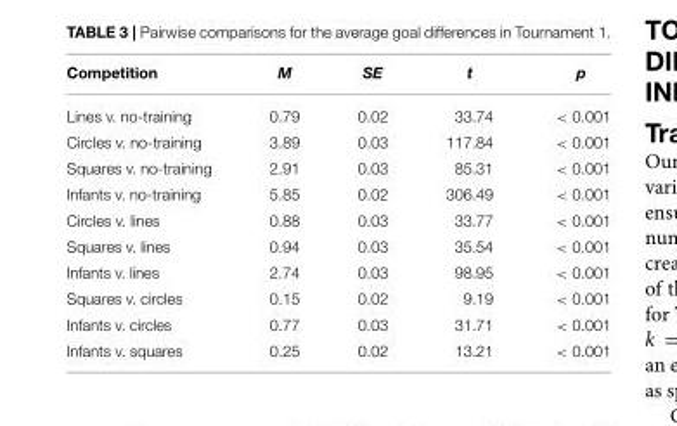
<table><thead><tr><td>Competition</td><td>M</td><td>SE</td><td>t</td><td>p</td></tr></thead><tbody><tr><td>Lines v. no-training</td><td>0.79</td><td>0.02</td><td>33.74</td><td>&lt; 0.001</td></tr><tr><td>Circles v. no-training</td><td>3.89</td><td>0.03</td><td>117.84</td><td>&lt; 0.001</td></tr><tr><td>Squares v. no-training</td><td>2.91</td><td>0.03</td><td>85.31</td><td>&lt; 0.001</td></tr><tr><td>Infants v. no-training</td><td>5.85</td><td>0.02</td><td>306.49</td><td>&lt; 0.001</td></tr><tr><td>Circles v. lines</td><td>0.88</td><td>0.03</td><td>33.77</td><td>&lt; 0.001</td></tr><tr><td>Squares v. lines</td><td>0.94</td><td>0.03</td><td>35.54</td><td>&lt; 0.001</td></tr><tr><td>Infants v. lines</td><td>2.74</td><td>0.03</td><td>98.95</td><td>&lt; 0.001</td></tr><tr><td>Squares v. circles</td><td>0.15</td><td>0.02</td><td>9.19</td><td>&lt; 0.001</td></tr><tr><td>Infants v. circles</td><td>0.77</td><td>0.03</td><td>31.71</td><td>&lt; 0.001</td></tr><tr><td>Infants v. squares</td><td>0.25</td><td>0.02</td><td>13.21</td><td>&lt; 0.001</td></tr></tbody></table>